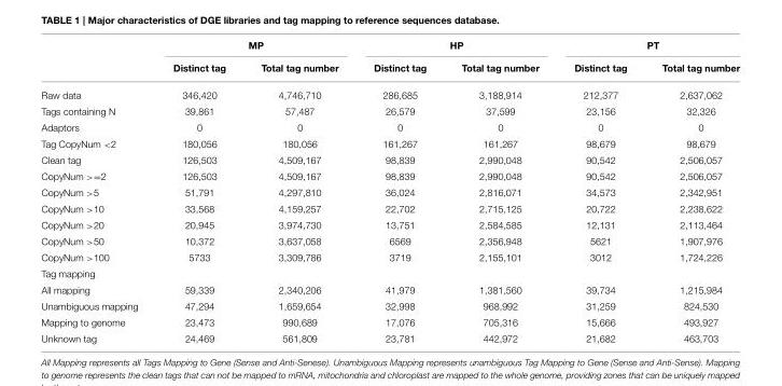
<table><thead><tr><td rowspan="2"></td><td colspan="2">MP</td><td colspan="2">HP</td><td colspan="2">PT</td></tr><tr><td>Distinct tag</td><td>Total tag number</td><td>Distinct tag</td><td>Total tag number</td><td>Distinct tag</td><td>Total tag number</td></tr></thead><tbody><tr><td>Raw data</td><td>346,420</td><td>4,746,710</td><td>286,685</td><td>3,188,914</td><td>212,377</td><td>2,637,062</td></tr><tr><td>Tags containing N</td><td>39,861</td><td>57,487</td><td>26,579</td><td>37,599</td><td>23,156</td><td>32,326</td></tr><tr><td>Adaptors</td><td>0</td><td>0</td><td>0</td><td>0</td><td>0</td><td>0</td></tr><tr><td>Tag CopyNum &lt;2</td><td>180,056</td><td>180,056</td><td>161,267</td><td>161,267</td><td>98,679</td><td>98,679</td></tr><tr><td>Clean tag</td><td>126,503</td><td>4,509,167</td><td>98,839</td><td>2,990,048</td><td>90,542</td><td>2,506,057</td></tr><tr><td>CopyNum &gt;=2</td><td>126,503</td><td>4,509,167</td><td>98,839</td><td>2,990,048</td><td>90,542</td><td>2,506,057</td></tr><tr><td>CopyNum &gt;5</td><td>51,791</td><td>4,297,810</td><td>36,024</td><td>2,816,071</td><td>34,573</td><td>2,342,951</td></tr><tr><td>CopyNum &gt;10</td><td>33,568</td><td>4,159,257</td><td>22,702</td><td>2,715,125</td><td>20,722</td><td>2,238,622</td></tr><tr><td>CopyNum &gt;20</td><td>20,945</td><td>3,974,730</td><td>13,751</td><td>2,584,585</td><td>12,131</td><td>2,113,464</td></tr><tr><td>CopyNum &gt;50</td><td>10,372</td><td>3,637,058</td><td>6569</td><td>2,356,948</td><td>5621</td><td>1,907,976</td></tr><tr><td>CopyNum &gt;100</td><td>5733</td><td>3,309,786</td><td>3719</td><td>2,155,101</td><td>3012</td><td>1,724,226</td></tr><tr><td colspan="7">Tag mapping</td></tr><tr><td>All mapping</td><td>59,339</td><td>2,340,206</td><td>41,979</td><td>1,381,560</td><td>39,734</td><td>1,215,984</td></tr><tr><td>Unambiguous mapping</td><td>47,294</td><td>1,659,654</td><td>32,998</td><td>968,992</td><td>31,259</td><td>824,530</td></tr><tr><td>Mapping to genome</td><td>23,473</td><td>990,689</td><td>17,076</td><td>705,316</td><td>15,666</td><td>493,927</td></tr><tr><td>Unknown tag</td><td>24,469</td><td>561,809</td><td>23,781</td><td>442,972</td><td>21,682</td><td>463,703</td></tr></tbody></table>